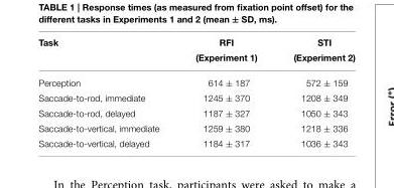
<table><thead><tr><td>Task</td><td>RFI (Experiment 1)</td><td>STI (Experiment 2)</td></tr></thead><tbody><tr><td>Perception</td><td>614 ± 187</td><td>572 ± 159</td></tr><tr><td>Saccade-to-rod, immediate</td><td>1245 ± 370</td><td>1208 ± 349</td></tr><tr><td>Saccade-to-rod, delayed</td><td>1187 ± 327</td><td>1050 ± 343</td></tr><tr><td>Saccade-to-vertical, immediate</td><td>1259 ± 380</td><td>1218 ± 336</td></tr><tr><td>Saccade-to-vertical, delayed</td><td>1184 ± 317</td><td>1036 ± 343</td></tr></tbody></table>